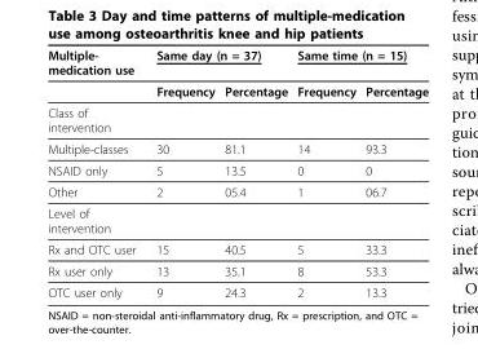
<table><thead><tr><td rowspan="2">Multiple- medication use</td><td colspan="2">Same day (n = 37)</td><td colspan="2">Same time (n = 15)</td></tr><tr><td>Frequency</td><td>Percentage</td><td>Frequency</td><td>Percentage</td></tr></thead><tbody><tr><td colspan="5">Class of intervention</td></tr><tr><td>Multiple-classes</td><td>30</td><td>81.1</td><td>14</td><td>93.3</td></tr><tr><td>NSAID only</td><td>5</td><td>13.5</td><td>0</td><td>0</td></tr><tr><td>Other</td><td>2</td><td>05.4</td><td>1</td><td>06.7</td></tr><tr><td colspan="5">Level of intervention</td></tr><tr><td>Rx and OTC user</td><td>15</td><td>40.5</td><td>5</td><td>33.3</td></tr><tr><td>Rx user only</td><td>13</td><td>35.1</td><td>8</td><td>53.3</td></tr><tr><td>OTC user only</td><td>9</td><td>24.3</td><td>2</td><td>13.3</td></tr></tbody></table>